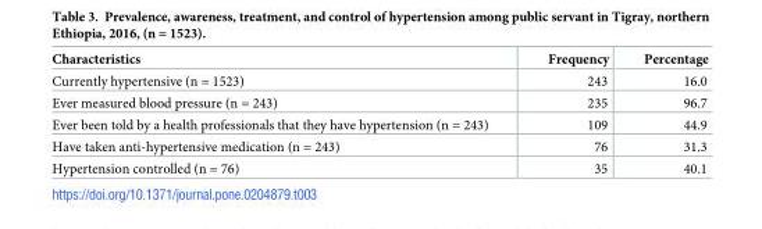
<table><thead><tr><td>Characteristics</td><td>Frequency</td><td>Percentage</td></tr></thead><tbody><tr><td>Currently hypertensive (n = 1523)</td><td>243</td><td>16.0</td></tr><tr><td>Ever measured blood pressure (n = 243)</td><td>235</td><td>96.7</td></tr><tr><td>Ever been told by a health professionals that they have hypertension (n = 243)</td><td>109</td><td>44.9</td></tr><tr><td>Have taken anti-hypertensive medication (n = 243)</td><td>76</td><td>31.3</td></tr><tr><td>Hypertension controlled (n = 76)</td><td>35</td><td>40.1</td></tr></tbody></table>